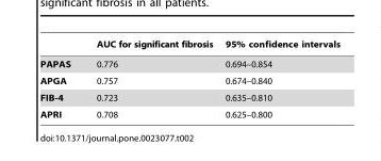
<table><thead><tr><td></td><td>AUC for significant fibrosis</td><td>95% confidence intervals</td></tr></thead><tbody><tr><td>PAPAS</td><td>0.776</td><td>0.694–0.854</td></tr><tr><td>APGA</td><td>0.757</td><td>0.674–0.840</td></tr><tr><td>FIB-4</td><td>0.723</td><td>0.635–0.810</td></tr><tr><td>APRI</td><td>0.708</td><td>0.625–0.800</td></tr></tbody></table>